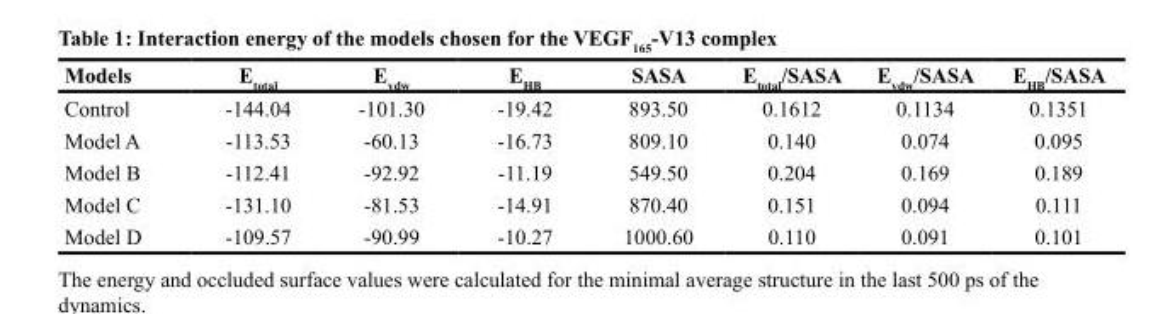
<table><thead><tr><td>Models</td><td>E<sub>total</sub></td><td>E<sub>vdw</sub></td><td>E<sub>HB</sub></td><td>SASA</td><td>E<sub>total</sub>/SASA</td><td>E<sub>vdw</sub>/SASA</td><td>E<sub>HB</sub>/SASA</td></tr></thead><tbody><tr><td>Control</td><td>-144.04</td><td>-101.30</td><td>-19.42</td><td>893.50</td><td>0.1612</td><td>0.1134</td><td>0.1351</td></tr><tr><td>Model A</td><td>-113.53</td><td>-60.13</td><td>-16.73</td><td>809.10</td><td>0.140</td><td>0.074</td><td>0.095</td></tr><tr><td>Model B</td><td>-112.41</td><td>-92.92</td><td>-11.19</td><td>549.50</td><td>0.204</td><td>0.169</td><td>0.189</td></tr><tr><td>Model C</td><td>-131.10</td><td>-81.53</td><td>-14.91</td><td>870.40</td><td>0.151</td><td>0.094</td><td>0.111</td></tr><tr><td>Model D</td><td>-109.57</td><td>-90.99</td><td>-10.27</td><td>1000.60</td><td>0.110</td><td>0.091</td><td>0.101</td></tr></tbody></table>